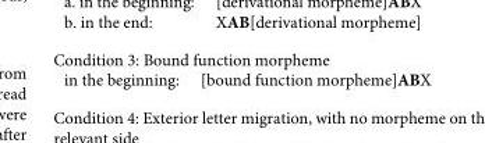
<table><tbody><tr><td colspan="2">Condition 3: Bound function morpheme</td></tr><tr><td>in the beginning:</td><td>[bound function morpheme]ABX</td></tr></tbody></table>